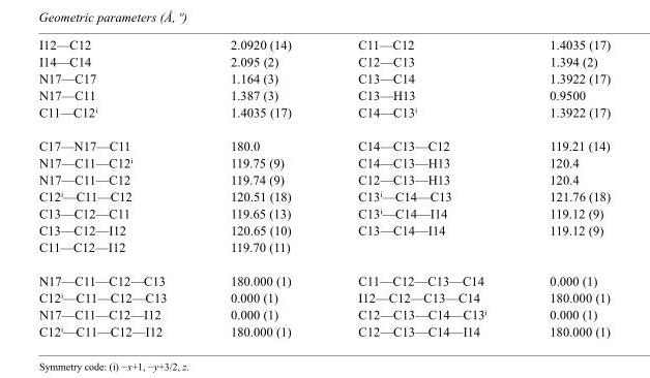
<table><tbody><tr><td>I12—C12</td><td>2.0920 (14)</td><td>C11—C12</td><td>1.4035 (17)</td></tr><tr><td>I14—C14</td><td>2.095 (2)</td><td>C12—C13</td><td>1.394 (2)</td></tr><tr><td>N17—C17</td><td>1.164 (3)</td><td>C13—C14</td><td>1.3922 (17)</td></tr><tr><td>N17—C11</td><td>1.387 (3)</td><td>C13—H13</td><td>0.9500</td></tr><tr><td>C11—C12<sup>i</sup></td><td>1.4035 (17)</td><td>C14—C13<sup>i</sup></td><td>1.3922 (17)</td></tr><tr><td>C17—N17—C11</td><td>180.0</td><td>C14—C13—C12</td><td>119.21 (14)</td></tr><tr><td>N17—C11—C12<sup>i</sup></td><td>119.75 (9)</td><td>C14—C13—H13</td><td>120.4</td></tr><tr><td>N17—C11—C12</td><td>119.74 (9)</td><td>C12—C13—H13</td><td>120.4</td></tr><tr><td>C12<sup>i</sup>—C11—C12</td><td>120.51 (18)</td><td>C13<sup>i</sup>—C14—C13</td><td>121.76 (18)</td></tr><tr><td>C13—C12—C11</td><td>119.65 (13)</td><td>C13<sup>i</sup>—C14—I14</td><td>119.12 (9)</td></tr><tr><td>C13—C12—I12</td><td>120.65 (10)</td><td>C13—C14—I14</td><td>119.12 (9)</td></tr><tr><td>C11—C12—I12</td><td>119.70 (11)</td><td></td><td></td></tr><tr><td>N17—C11—C12—C13</td><td>180.000 (1)</td><td>C11—C12—C13—C14</td><td>0.000 (1)</td></tr><tr><td>C12<sup>i</sup>—C11—C12—C13</td><td>0.000 (1)</td><td>I12—C12—C13—C14</td><td>180.000 (1)</td></tr><tr><td>N17—C11—C12—I12</td><td>0.000 (1)</td><td>C12—C13—C14—C13<sup>i</sup></td><td>0.000 (1)</td></tr><tr><td>C12<sup>i</sup>—C11—C12—I12</td><td>180.000 (1)</td><td>C12—C13—C14—I14</td><td>180.000 (1)</td></tr></tbody></table>